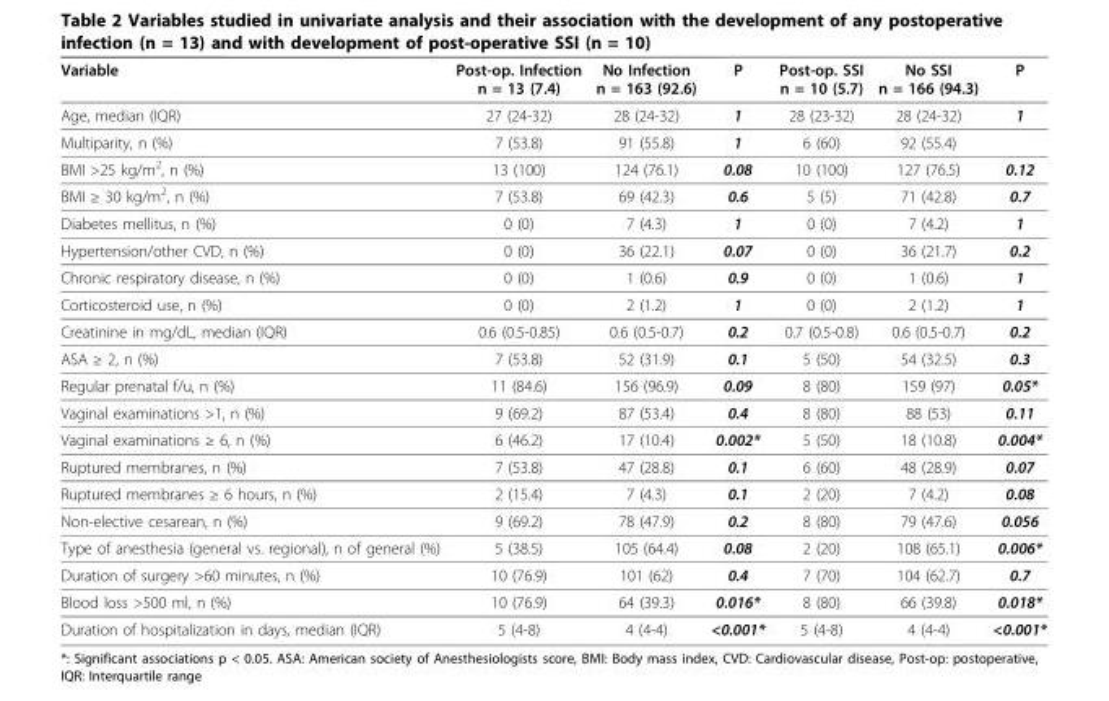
<table><thead><tr><td>Variable</td><td>Post-op. Infection n = 13 (7.4)</td><td>No Infection n = 163 (92.6)</td><td>P</td><td>Post-op. SSI n = 10 (5.7)</td><td>No SSI n = 166 (94.3)</td><td>P</td></tr></thead><tbody><tr><td>Age, median (IQR)</td><td>27 (24-32)</td><td>28 (24-32)</td><td>1</td><td>28 (23-32)</td><td>28 (24-32)</td><td>1</td></tr><tr><td>Multiparity, n (%)</td><td>7 (53.8)</td><td>91 (55.8)</td><td>1</td><td>6 (60)</td><td>92 (55.4)</td><td></td></tr><tr><td>BMI &gt;25 kg/m<sup>2</sup>, n (%)</td><td>13 (100)</td><td>124 (76.1)</td><td>0.08</td><td>10 (100)</td><td>127 (76.5)</td><td>0.12</td></tr><tr><td>BMI ≥ 30 kg/m<sup>2</sup>, n (%)</td><td>7 (53.8)</td><td>69 (42.3)</td><td>0.6</td><td>5 (5)</td><td>71 (42.8)</td><td>0.7</td></tr><tr><td>Diabetes mellitus, n (%)</td><td>0 (0)</td><td>7 (4.3)</td><td>1</td><td>0 (0)</td><td>7 (4.2)</td><td>1</td></tr><tr><td>Hypertension/other CVD, n (%)</td><td>0 (0)</td><td>36 (22.1)</td><td>0.07</td><td>0 (0)</td><td>36 (21.7)</td><td>0.2</td></tr><tr><td>Chronic respiratory disease, n (%)</td><td>0 (0)</td><td>1 (0.6)</td><td>0.9</td><td>0 (0)</td><td>1 (0.6)</td><td>1</td></tr><tr><td>Corticosteroid use, n (%)</td><td>0 (0)</td><td>2 (1.2)</td><td>1</td><td>0 (0)</td><td>2 (1.2)</td><td>1</td></tr><tr><td>Creatinine in mg/dL, median (IQR)</td><td>0.6 (0.5-0.85)</td><td>0.6 (0.5-0.7)</td><td>0.2</td><td>0.7 (0.5-0.8)</td><td>0.6 (0.5-0.7)</td><td>0.2</td></tr><tr><td>ASA ≥ 2, n (%)</td><td>7 (53.8)</td><td>52 (31.9)</td><td>0.1</td><td>5 (50)</td><td>54 (32.5)</td><td>0.3</td></tr><tr><td>Regular prenatal f/u, n (%)</td><td>11 (84.6)</td><td>156 (96.9)</td><td>0.09</td><td>8 (80)</td><td>159 (97)</td><td>0.05*</td></tr><tr><td>Vaginal examinations &gt;1, n (%)</td><td>9 (69.2)</td><td>87 (53.4)</td><td>0.4</td><td>8 (80)</td><td>88 (53)</td><td>0.11</td></tr><tr><td>Vaginal examinations ≥ 6, n (%)</td><td>6 (46.2)</td><td>17 (10.4)</td><td>0.002*</td><td>5 (50)</td><td>18 (10.8)</td><td>0.004*</td></tr><tr><td>Ruptured membranes, n (%)</td><td>7 (53.8)</td><td>47 (28.8)</td><td>0.1</td><td>6 (60)</td><td>48 (28.9)</td><td>0.07</td></tr><tr><td>Ruptured membranes ≥ 6 hours, n (%)</td><td>2 (15.4)</td><td>7 (4.3)</td><td>0.1</td><td>2 (20)</td><td>7 (4.2)</td><td>0.08</td></tr><tr><td>Non-elective cesarean, n (%)</td><td>9 (69.2)</td><td>78 (47.9)</td><td>0.2</td><td>8 (80)</td><td>79 (47.6)</td><td>0.056</td></tr><tr><td>Type of anesthesia (general vs. regional), n of general (%)</td><td>5 (38.5)</td><td>105 (64.4)</td><td>0.08</td><td>2 (20)</td><td>108 (65.1)</td><td>0.006*</td></tr><tr><td>Duration of surgery &gt;60 minutes, n (%)</td><td>10 (76.9)</td><td>101 (62)</td><td>0.4</td><td>7 (70)</td><td>104 (62.7)</td><td>0.7</td></tr><tr><td>Blood loss &gt;500 ml, n (%)</td><td>10 (76.9)</td><td>64 (39.3)</td><td>0.016*</td><td>8 (80)</td><td>66 (39.8)</td><td>0.018*</td></tr><tr><td>Duration of hospitalization in days, median (IQR)</td><td>5 (4-8)</td><td>4 (4-4)</td><td>&lt;0.001*</td><td>5 (4-8)</td><td>4 (4-4)</td><td>&lt;0.001*</td></tr></tbody></table>